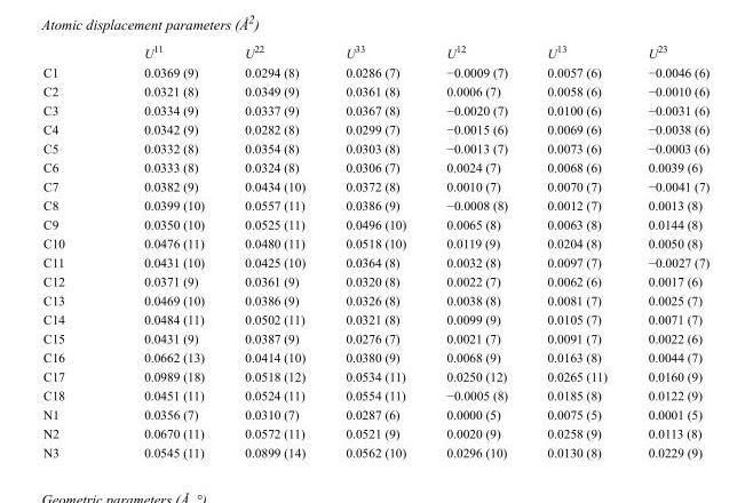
<table><thead><tr><td></td><td>U<sup>11</sup></td><td>U<sup>22</sup></td><td>U<sup>33</sup></td><td>U<sup>12</sup></td><td>U<sup>13</sup></td><td>U<sup>23</sup></td></tr></thead><tbody><tr><td>C1</td><td>0.0369 (9)</td><td>0.0294 (8)</td><td>0.0286 (7)</td><td>−0.0009 (7)</td><td>0.0057 (6)</td><td>−0.0046 (6)</td></tr><tr><td>C2</td><td>0.0321 (8)</td><td>0.0349 (9)</td><td>0.0361 (8)</td><td>0.0006 (7)</td><td>0.0058 (6)</td><td>−0.0010 (6)</td></tr><tr><td>C3</td><td>0.0334 (9)</td><td>0.0337 (9)</td><td>0.0367 (8)</td><td>−0.0020 (7)</td><td>0.0100 (6)</td><td>−0.0031 (6)</td></tr><tr><td>C4</td><td>0.0342 (9)</td><td>0.0282 (8)</td><td>0.0299 (7)</td><td>−0.0015 (6)</td><td>0.0069 (6)</td><td>−0.0038 (6)</td></tr><tr><td>C5</td><td>0.0332 (8)</td><td>0.0354 (8)</td><td>0.0303 (8)</td><td>−0.0013 (7)</td><td>0.0073 (6)</td><td>−0.0003 (6)</td></tr><tr><td>C6</td><td>0.0333 (8)</td><td>0.0324 (8)</td><td>0.0306 (7)</td><td>0.0024 (7)</td><td>0.0068 (6)</td><td>0.0039 (6)</td></tr><tr><td>C7</td><td>0.0382 (9)</td><td>0.0434 (10)</td><td>0.0372 (8)</td><td>0.0010 (7)</td><td>0.0070 (7)</td><td>−0.0041 (7)</td></tr><tr><td>C8</td><td>0.0399 (10)</td><td>0.0557 (11)</td><td>0.0386 (9)</td><td>−0.0008 (8)</td><td>0.0012 (7)</td><td>0.0013 (8)</td></tr><tr><td>C9</td><td>0.0350 (10)</td><td>0.0525 (11)</td><td>0.0496 (10)</td><td>0.0065 (8)</td><td>0.0063 (8)</td><td>0.0144 (8)</td></tr><tr><td>C10</td><td>0.0476 (11)</td><td>0.0480 (11)</td><td>0.0518 (10)</td><td>0.0119 (9)</td><td>0.0204 (8)</td><td>0.0050 (8)</td></tr><tr><td>C11</td><td>0.0431 (10)</td><td>0.0425 (10)</td><td>0.0364 (8)</td><td>0.0032 (8)</td><td>0.0097 (7)</td><td>−0.0027 (7)</td></tr><tr><td>C12</td><td>0.0371 (9)</td><td>0.0361 (9)</td><td>0.0320 (8)</td><td>0.0022 (7)</td><td>0.0062 (6)</td><td>0.0017 (6)</td></tr><tr><td>C13</td><td>0.0469 (10)</td><td>0.0386 (9)</td><td>0.0326 (8)</td><td>0.0038 (8)</td><td>0.0081 (7)</td><td>0.0025 (7)</td></tr><tr><td>C14</td><td>0.0484 (11)</td><td>0.0502 (11)</td><td>0.0321 (8)</td><td>0.0099 (9)</td><td>0.0105 (7)</td><td>0.0071 (7)</td></tr><tr><td>C15</td><td>0.0431 (9)</td><td>0.0387 (9)</td><td>0.0276 (7)</td><td>0.0021 (7)</td><td>0.0091 (7)</td><td>0.0022 (6)</td></tr><tr><td>C16</td><td>0.0662 (13)</td><td>0.0414 (10)</td><td>0.0380 (9)</td><td>0.0068 (9)</td><td>0.0163 (8)</td><td>0.0044 (7)</td></tr><tr><td>C17</td><td>0.0989 (18)</td><td>0.0518 (12)</td><td>0.0534 (11)</td><td>0.0250 (12)</td><td>0.0265 (11)</td><td>0.0160 (9)</td></tr><tr><td>C18</td><td>0.0451 (11)</td><td>0.0524 (11)</td><td>0.0554 (11)</td><td>−0.0005 (8)</td><td>0.0185 (8)</td><td>0.0122 (9)</td></tr><tr><td>N1</td><td>0.0356 (7)</td><td>0.0310 (7)</td><td>0.0287 (6)</td><td>0.0000 (5)</td><td>0.0075 (5)</td><td>0.0001 (5)</td></tr><tr><td>N2</td><td>0.0670 (11)</td><td>0.0572 (11)</td><td>0.0521 (9)</td><td>0.0020 (9)</td><td>0.0258 (9)</td><td>0.0113 (8)</td></tr><tr><td>N3</td><td>0.0545 (11)</td><td>0.0899 (14)</td><td>0.0562 (10)</td><td>0.0296 (10)</td><td>0.0130 (8)</td><td>0.0229 (9)</td></tr></tbody></table>